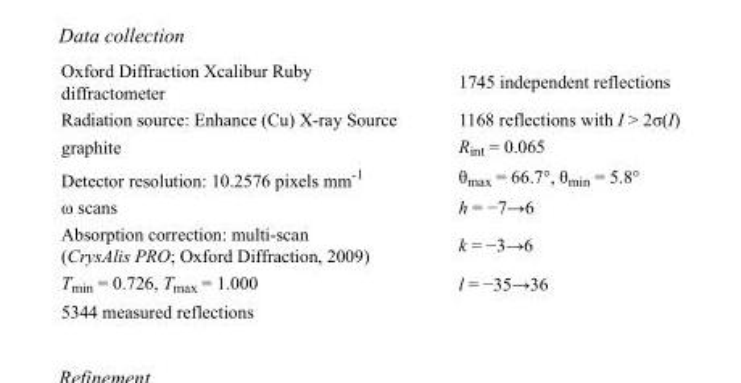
<table><tbody><tr><td>Oxford Diffraction Xcalibur Ruby diffractometer</td><td>1745 independent reflections</td></tr><tr><td>Radiation source: Enhance (Cu) X-ray Source</td><td>1168 reflections with I &gt; 2σ(I)</td></tr><tr><td>graphite</td><td>R<sub>int</sub> = 0.065</td></tr><tr><td>Detector resolution: 10.2576 pixels mm<sup>-1</sup></td><td>θ<sub>max</sub> = 66.7°, θ<sub>min</sub> = 5.8°</td></tr><tr><td>ω scans</td><td>h = −7→6</td></tr><tr><td>Absorption correction: multi-scan (CrysAlis PRO; Oxford Diffraction, 2009)</td><td>k = −3→6</td></tr><tr><td>T<sub>min</sub> = 0.726, T<sub>max</sub> = 1.000</td><td>l = −35→36</td></tr><tr><td>5344 measured reflections</td><td></td></tr></tbody></table>